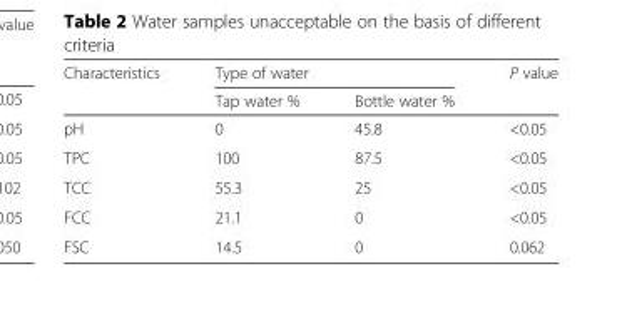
<table><thead><tr><td rowspan="2">Characteristics</td><td colspan="2">Type of water</td><td rowspan="2">P value</td></tr><tr><td>Tap water %</td><td>Bottle water %</td></tr></thead><tbody><tr><td>pH</td><td>0</td><td>45.8</td><td>&lt;0.05</td></tr><tr><td>TPC</td><td>100</td><td>87.5</td><td>&lt;0.05</td></tr><tr><td>TCC</td><td>55.3</td><td>25</td><td>&lt;0.05</td></tr><tr><td>FCC</td><td>21.1</td><td>0</td><td>&lt;0.05</td></tr><tr><td>FSC</td><td>14.5</td><td>0</td><td>0.062</td></tr></tbody></table>